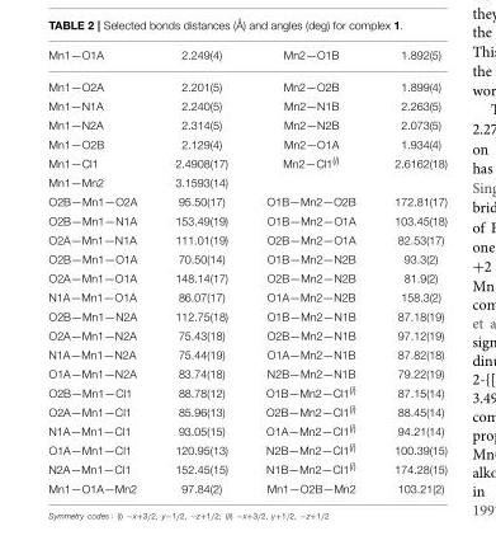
<table><thead><tr><td>Mn1—O1A</td><td>2.249(4)</td><td>Mn2—O1B</td><td>1.892(5)</td></tr></thead><tbody><tr><td>Mn1—O2A</td><td>2.201(5)</td><td>Mn2—O2B</td><td>1.899(4)</td></tr><tr><td>Mn1—N1A</td><td>2.240(5)</td><td>Mn2—N1B</td><td>2.263(5)</td></tr><tr><td>Mn1—N2A</td><td>2.314(5)</td><td>Mn2—N2B</td><td>2.073(5)</td></tr><tr><td>Mn1—O2B</td><td>2.129(4)</td><td>Mn2—O1A</td><td>1.934(4)</td></tr><tr><td>Mn1—Cl1</td><td>2.4908(17)</td><td>Mn2—Cl1<sup>(i)</sup></td><td>2.6162(18)</td></tr><tr><td>Mn1—Mn2</td><td>3.1593(14)</td><td></td><td></td></tr><tr><td>O2B—Mn1—O2A</td><td>95.50(17)</td><td>O1B—Mn2—O2B</td><td>172.81(17)</td></tr><tr><td>O2B—Mn1—N1A</td><td>153.49(19)</td><td>O1B—Mn2—O1A</td><td>103.45(18)</td></tr><tr><td>O2A—Mn1—N1A</td><td>111.01(19)</td><td>O2B—Mn2—O1A</td><td>82.53(17)</td></tr><tr><td>O2B—Mn1—O1A</td><td>70.50(14)</td><td>O1B—Mn2—N2B</td><td>93.3(2)</td></tr><tr><td>O2A—Mn1—O1A</td><td>148.14(17)</td><td>O2B—Mn2—N2B</td><td>81.9(2)</td></tr><tr><td>N1A—Mn1—O1A</td><td>86.07(17)</td><td>O1A—Mn2—N2B</td><td>158.3(2)</td></tr><tr><td>O2B—Mn1—N2A</td><td>112.75(18)</td><td>O1B—Mn2—N1B</td><td>87.18(19)</td></tr><tr><td>O2A—Mn1—N2A</td><td>75.43(18)</td><td>O2B—Mn2—N1B</td><td>97.12(19)</td></tr><tr><td>N1A—Mn1—N2A</td><td>75.44(19)</td><td>O1A—Mn2—N1B</td><td>87.82(18)</td></tr><tr><td>O1A—Mn1—N2A</td><td>83.74(18)</td><td>N2B—Mn2—N1B</td><td>79.22(19)</td></tr><tr><td>O2B—Mn1—Cl1</td><td>88.78(12)</td><td>O1B—Mn2—Cl1<sup>(i)</sup></td><td>87.15(14)</td></tr><tr><td>O2A—Mn1—Cl1</td><td>85.96(13)</td><td>O2B—Mn2—Cl1<sup>(i)</sup></td><td>88.45(14)</td></tr><tr><td>N1A—Mn1—Cl1</td><td>93.05(15)</td><td>O1A—Mn2—Cl1<sup>(i)</sup></td><td>94.21(14)</td></tr><tr><td>O1A—Mn1—Cl1</td><td>120.95(13)</td><td>N2B—Mn2—Cl1<sup>(i)</sup></td><td>100.39(15)</td></tr><tr><td>N2A—Mn1—Cl1</td><td>152.45(15)</td><td>N1B—Mn2—Cl1<sup>(i)</sup></td><td>174.28(15)</td></tr><tr><td>Mn1—O1A—Mn2</td><td>97.84(2)</td><td>Mn1—O2B—Mn2</td><td>103.21(2)</td></tr></tbody></table>